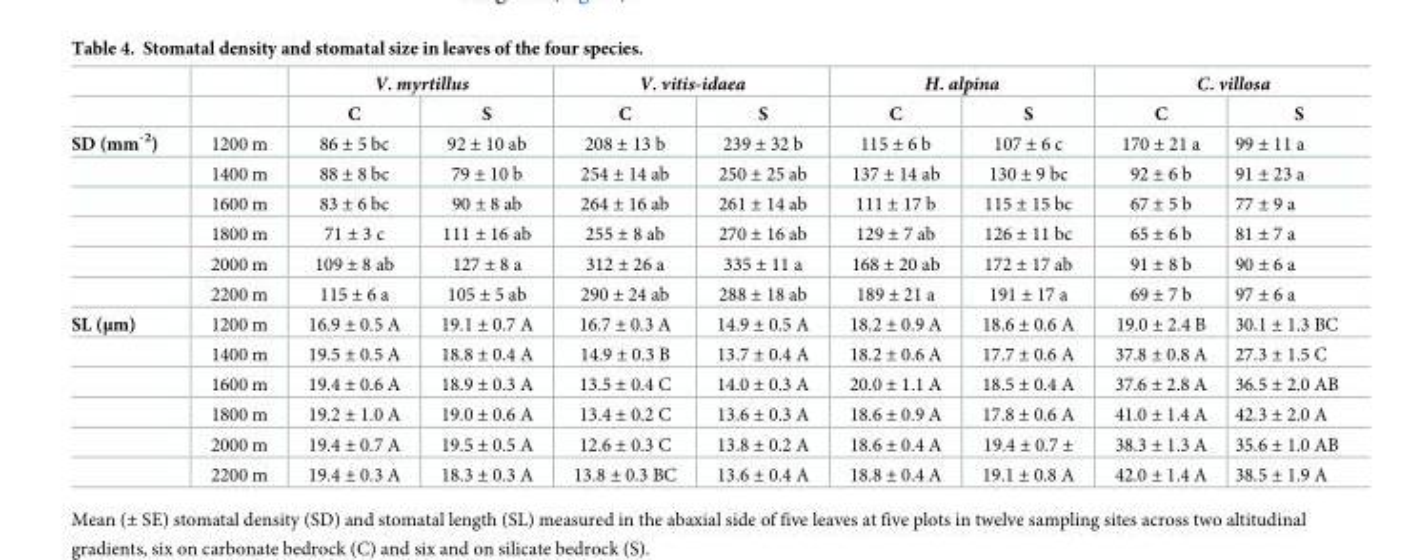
<table><thead><tr><td rowspan="2"></td><td rowspan="2"></td><td colspan="2">V. myrtillus</td><td colspan="2">V. vitis-idaea</td><td colspan="2">H. alpina</td><td colspan="2">C. villosa</td></tr><tr><td>C</td><td>S</td><td>C</td><td>S</td><td>C</td><td>S</td><td>C</td><td>S</td></tr></thead><tbody><tr><td rowspan="6">SD (mm<sup>-2</sup>)</td><td>1200 m</td><td>86 ± 5 bc</td><td>92 ± 10 ab</td><td>208 ± 13 b</td><td>239 ± 32 b</td><td>115 ± 6 b</td><td>107 ± 6 c</td><td>170 ± 21 a</td><td>99 ± 11 a</td></tr><tr><td>1400 m</td><td>88 ± 8 bc</td><td>79 ± 10 b</td><td>254 ± 14 ab</td><td>250 ± 25 ab</td><td>137 ± 14 ab</td><td>130 ± 9 bc</td><td>92 ± 6 b</td><td>91 ± 23 a</td></tr><tr><td>1600 m</td><td>83 ± 6 bc</td><td>90 ± 8 ab</td><td>264 ± 16 ab</td><td>261 ± 14 ab</td><td>111 ± 17 b</td><td>115 ± 15 bc</td><td>67 ± 5 b</td><td>77 ± 9 a</td></tr><tr><td>1800 m</td><td>71 ± 3 c</td><td>111 ± 16 ab</td><td>255 ± 8 ab</td><td>270 ± 16 ab</td><td>129 ± 7 ab</td><td>126 ± 11 bc</td><td>65 ± 6 b</td><td>81 ± 7 a</td></tr><tr><td>2000 m</td><td>109 ± 8 ab</td><td>127 ± 8 a</td><td>312 ± 26 a</td><td>335 ± 11 a</td><td>168 ± 20 ab</td><td>172 ± 17 ab</td><td>91 ± 8 b</td><td>90 ± 6 a</td></tr><tr><td>2200 m</td><td>115 ± 6 a</td><td>105 ± 5 ab</td><td>290 ± 24 ab</td><td>288 ± 18 ab</td><td>189 ± 21 a</td><td>191 ± 17 a</td><td>69 ± 7 b</td><td>97 ± 6 a</td></tr><tr><td rowspan="6">SL (μm)</td><td>1200 m</td><td>16.9 ± 0.5 A</td><td>19.1 ± 0.7 A</td><td>16.7 ± 0.3 A</td><td>14.9 ± 0.5 A</td><td>18.2 ± 0.9 A</td><td>18.6 ± 0.6 A</td><td>19.0 ± 2.4 B</td><td>30.1 ± 1.3 BC</td></tr><tr><td>1400 m</td><td>19.5 ± 0.5 A</td><td>18.8 ± 0.4 A</td><td>14.9 ± 0.3 B</td><td>13.7 ± 0.4 A</td><td>18.2 ± 0.6 A</td><td>17.7 ± 0.6 A</td><td>37.8 ± 0.8 A</td><td>27.3 ± 1.5 C</td></tr><tr><td>1600 m</td><td>19.4 ± 0.6 A</td><td>18.9 ± 0.3 A</td><td>13.5 ± 0.4 C</td><td>14.0 ± 0.3 A</td><td>20.0 ± 1.1 A</td><td>18.5 ± 0.4 A</td><td>37.6 ± 2.8 A</td><td>36.5 ± 2.0 AB</td></tr><tr><td>1800 m</td><td>19.2 ± 1.0 A</td><td>19.0 ± 0.6 A</td><td>13.4 ± 0.2 C</td><td>13.6 ± 0.3 A</td><td>18.6 ± 0.9 A</td><td>17.8 ± 0.6 A</td><td>41.0 ± 1.4 A</td><td>42.3 ± 2.0 A</td></tr><tr><td>2000 m</td><td>19.4 ± 0.7 A</td><td>19.5 ± 0.5 A</td><td>12.6 ± 0.3 C</td><td>13.8 ± 0.2 A</td><td>18.6 ± 0.4 A</td><td>19.4 ± 0.7 ±</td><td>38.3 ± 1.3 A</td><td>35.6 ± 1.0 AB</td></tr><tr><td>2200 m</td><td>19.4 ± 0.3 A</td><td>18.3 ± 0.3 A</td><td>13.8 ± 0.3 BC</td><td>13.6 ± 0.4 A</td><td>18.8 ± 0.4 A</td><td>19.1 ± 0.8 A</td><td>42.0 ± 1.4 A</td><td>38.5 ± 1.9 A</td></tr></tbody></table>